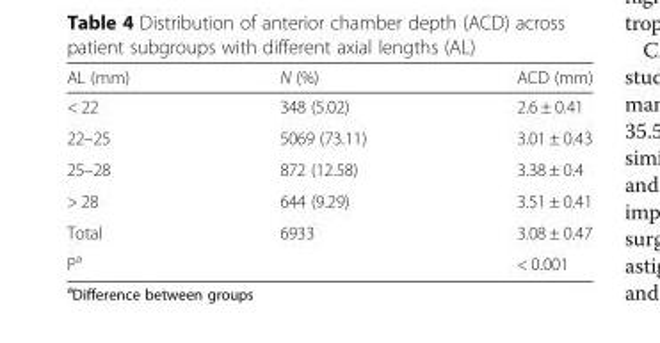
<table><thead><tr><td>AL (mm)</td><td>N (%)</td><td>ACD (mm)</td></tr></thead><tbody><tr><td>&lt; 22</td><td>348 (5.02)</td><td>2.6 ± 0.41</td></tr><tr><td>22–25</td><td>5069 (73.11)</td><td>3.01 ± 0.43</td></tr><tr><td>25–28</td><td>872 (12.58)</td><td>3.38 ± 0.4</td></tr><tr><td>&gt; 28</td><td>644 (9.29)</td><td>3.51 ± 0.41</td></tr><tr><td>Total</td><td>6933</td><td>3.08 ± 0.47</td></tr><tr><td>P<sup>a</sup></td><td></td><td>&lt; 0.001</td></tr></tbody></table>